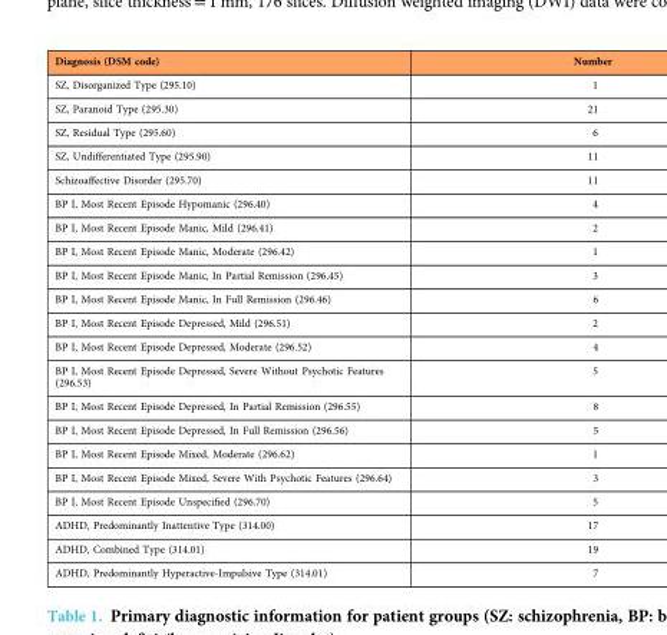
<table><thead><tr><td>Diagnosis (DSM code)</td><td>Number</td></tr></thead><tbody><tr><td>SZ, Disorganized Type (295.10)</td><td>1</td></tr><tr><td>SZ, Paranoid Type (295.30)</td><td>21</td></tr><tr><td>SZ, Residual Type (295.60)</td><td>6</td></tr><tr><td>SZ, Undifferentiated Type (295.90)</td><td>11</td></tr><tr><td>Schizoaffective Disorder (295.70)</td><td>11</td></tr><tr><td>BP I, Most Recent Episode Hypomanic (296.40)</td><td>4</td></tr><tr><td>BP I, Most Recent Episode Manic, Mild (296.41)</td><td>2</td></tr><tr><td>BP I, Most Recent Episode Manic, Moderate (296.42)</td><td>1</td></tr><tr><td>BP I, Most Recent Episode Manic, In Partial Remission (296.45)</td><td>3</td></tr><tr><td>BP I, Most Recent Episode Manic, In Full Remission (296.46)</td><td>6</td></tr><tr><td>BP I, Most Recent Episode Depressed, Mild (296.51)</td><td>2</td></tr><tr><td>BP I, Most Recent Episode Depressed, Moderate (296.52)</td><td>4</td></tr><tr><td>BP I, Most Recent Episode Depressed, Severe Without Psychotic Features (296.53)</td><td>5</td></tr><tr><td>BP I, Most Recent Episode Depressed, In Partial Remission (296.55)</td><td>8</td></tr><tr><td>BP I, Most Recent Episode Depressed, In Full Remission (296.56)</td><td>5</td></tr><tr><td>BP I, Most Recent Episode Mixed, Moderate (296.62)</td><td>1</td></tr><tr><td>BP I, Most Recent Episode Mixed, Severe With Psychotic Features (296.64)</td><td>3</td></tr><tr><td>BP I, Most Recent Episode Unspecified (296.70)</td><td>5</td></tr><tr><td>ADHD, Predominantly Inattentive Type (314.00)</td><td>17</td></tr><tr><td>ADHD, Combined Type (314.01)</td><td>19</td></tr><tr><td>ADHD, Predominantly Hyperactive-Impulsive Type (314.01)</td><td>7</td></tr></tbody></table>